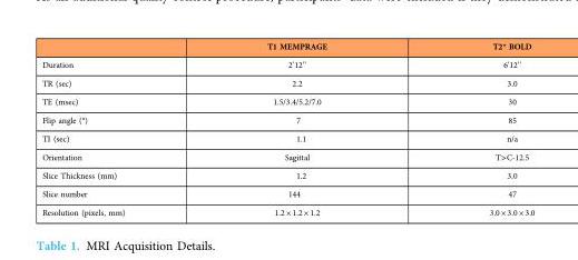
<table><thead><tr><td></td><td>T1 MEMPRAGE</td><td>T2* BOLD</td></tr></thead><tbody><tr><td>Duration</td><td>2’12’’</td><td>6’12’’</td></tr><tr><td>TR (sec)</td><td>2.2</td><td>3.0</td></tr><tr><td>TE (msec)</td><td>1.5/3.4/5.2/7.0</td><td>30</td></tr><tr><td>Flip angle (°)</td><td>7</td><td>85</td></tr><tr><td>TI (sec)</td><td>1.1</td><td>n/a</td></tr><tr><td>Orientation</td><td>Sagittal</td><td>T&gt;C-12.5</td></tr><tr><td>Slice Thickness (mm)</td><td>1.2</td><td>3.0</td></tr><tr><td>Slice number</td><td>144</td><td>47</td></tr><tr><td>Resolution (pixels, mm)</td><td>1.2 × 1.2 × 1.2</td><td>3.0 × 3.0 × 3.0</td></tr></tbody></table>